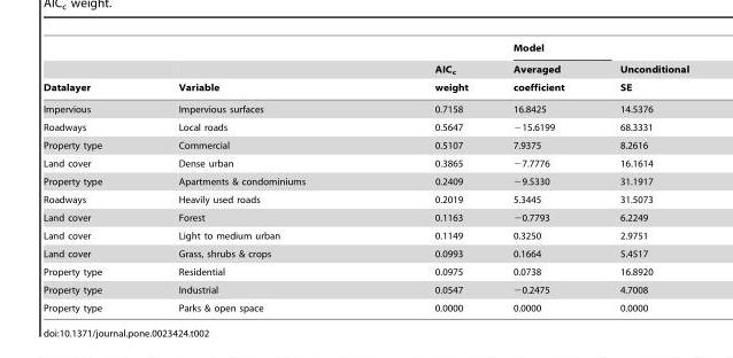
<table><thead><tr><td rowspan="3">Datalayer</td><td rowspan="3">Variable</td><td rowspan="3">AIC<sub>c</sub> weight</td><td rowspan="3">Model Averaged coefficient</td><td rowspan="3">Unconditional SE</td></tr><tr></tr><tr></tr></thead><tbody><tr><td>Impervious</td><td>Impervious surfaces</td><td>0.7158</td><td>16.8425</td><td>14.5376</td></tr><tr><td>Roadways</td><td>Local roads</td><td>0.5647</td><td>−15.6199</td><td>68.3331</td></tr><tr><td>Property type</td><td>Commercial</td><td>0.5107</td><td>7.9375</td><td>8.2616</td></tr><tr><td>Land cover</td><td>Dense urban</td><td>0.3865</td><td>−7.7776</td><td>16.1614</td></tr><tr><td>Property type</td><td>Apartments &amp; condominiums</td><td>0.2409</td><td>−9.5330</td><td>31.1917</td></tr><tr><td>Roadways</td><td>Heavily used roads</td><td>0.2019</td><td>5.3445</td><td>31.5073</td></tr><tr><td>Land cover</td><td>Forest</td><td>0.1163</td><td>−0.7793</td><td>6.2249</td></tr><tr><td>Land cover</td><td>Light to medium urban</td><td>0.1149</td><td>0.3250</td><td>2.9751</td></tr><tr><td>Land cover</td><td>Grass, shrubs &amp; crops</td><td>0.0993</td><td>0.1664</td><td>5.4517</td></tr><tr><td>Property type</td><td>Residential</td><td>0.0975</td><td>0.0738</td><td>16.8920</td></tr><tr><td>Property type</td><td>Industrial</td><td>0.0547</td><td>−0.2475</td><td>4.7008</td></tr><tr><td>Property type</td><td>Parks &amp; open space</td><td>0.0000</td><td>0.0000</td><td>0.0000</td></tr></tbody></table>